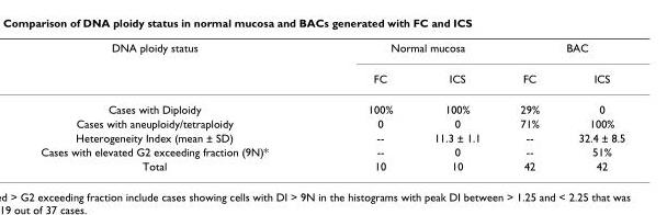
<table><thead><tr><td rowspan="2">DNA ploidy status</td><td colspan="2">Normal mucosa</td><td colspan="2">BAC</td></tr><tr><td>FC</td><td>ICS</td><td>FC</td><td>ICS</td></tr></thead><tbody><tr><td>Cases with Diploidy</td><td>100%</td><td>100%</td><td>29%</td><td>0</td></tr><tr><td>Cases with aneuploidy/tetraploidy</td><td>0</td><td>0</td><td>71%</td><td>100%</td></tr><tr><td>Heterogeneity Index (mean ± SD)</td><td>--</td><td>11.3 ± 1.1</td><td>--</td><td>32.4 ± 8.5</td></tr><tr><td>Cases with elevated G2 exceeding fraction (9N)*</td><td>--</td><td>0</td><td>--</td><td>51%</td></tr><tr><td>Total</td><td>10</td><td>10</td><td>42</td><td>42</td></tr></tbody></table>